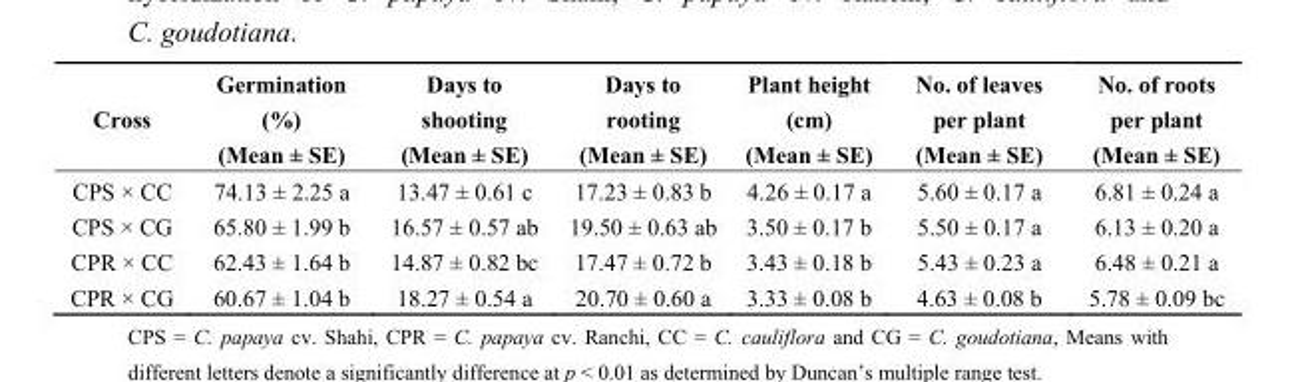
<table><thead><tr><td>Cross</td><td>Germination (%) (Mean ± SE)</td><td>Days to shooting (Mean ± SE)</td><td>Days to rooting (Mean ± SE)</td><td>Plant height (cm) (Mean ± SE)</td><td>No. of leaves per plant (Mean ± SE)</td><td>No. of roots per plant (Mean ± SE)</td></tr></thead><tbody><tr><td>CPS × CC</td><td>74.13 ± 2.25 a</td><td>13.47 ± 0.61 c</td><td>17.23 ± 0.83 b</td><td>4.26 ± 0.17 a</td><td>5.60 ± 0.17 a</td><td>6.81 ± 0.24 a</td></tr><tr><td>CPS × CG</td><td>65.80 ± 1.99 b</td><td>16.57 ± 0.57 ab</td><td>19.50 ± 0.63 ab</td><td>3.50 ± 0.17 b</td><td>5.50 ± 0.17 a</td><td>6.13 ± 0.20 a</td></tr><tr><td>CPR × CC</td><td>62.43 ± 1.64 b</td><td>14.87 ± 0.82 bc</td><td>17.47 ± 0.72 b</td><td>3.43 ± 0.18 b</td><td>5.43 ± 0.23 a</td><td>6.48 ± 0.21 a</td></tr><tr><td>CPR × CG</td><td>60.67 ± 1.04 b</td><td>18.27 ± 0.54 a</td><td>20.70 ± 0.60 a</td><td>3.33 ± 0.08 b</td><td>4.63 ± 0.08 b</td><td>5.78 ± 0.09 bc</td></tr></tbody></table>